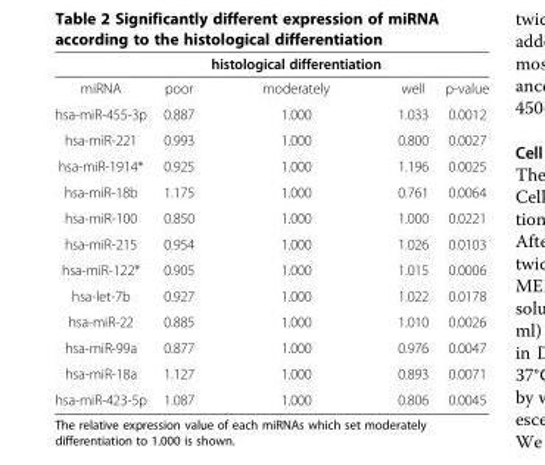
<table><thead><tr><td></td><td></td><td>histological differentiation</td><td></td><td></td></tr></thead><tbody><tr><td>miRNA</td><td>poor</td><td>moderately</td><td>well</td><td>p-value</td></tr><tr><td>hsa-miR-455-3p</td><td>0.887</td><td>1.000</td><td>1.033</td><td>0.0012</td></tr><tr><td>hsa-miR-221</td><td>0.993</td><td>1.000</td><td>0.800</td><td>0.0027</td></tr><tr><td>hsa-miR-1914*</td><td>0.925</td><td>1.000</td><td>1.196</td><td>0.0025</td></tr><tr><td>hsa-miR-18b</td><td>1.175</td><td>1.000</td><td>0.761</td><td>0.0064</td></tr><tr><td>hsa-miR-100</td><td>0.850</td><td>1.000</td><td>1.000</td><td>0.0221</td></tr><tr><td>hsa-miR-215</td><td>0.954</td><td>1.000</td><td>1.026</td><td>0.0103</td></tr><tr><td>hsa-miR-122*</td><td>0.905</td><td>1.000</td><td>1.015</td><td>0.0006</td></tr><tr><td>hsa-let-7b</td><td>0.927</td><td>1.000</td><td>1.022</td><td>0.0178</td></tr><tr><td>hsa-miR-22</td><td>0.885</td><td>1.000</td><td>1.010</td><td>0.0026</td></tr><tr><td>hsa-miR-99a</td><td>0.877</td><td>1.000</td><td>0.976</td><td>0.0047</td></tr><tr><td>hsa-miR-18a</td><td>1.127</td><td>1.000</td><td>0.893</td><td>0.0071</td></tr><tr><td>hsa-miR-423-5p</td><td>1.087</td><td>1.000</td><td>0.806</td><td>0.0045</td></tr></tbody></table>